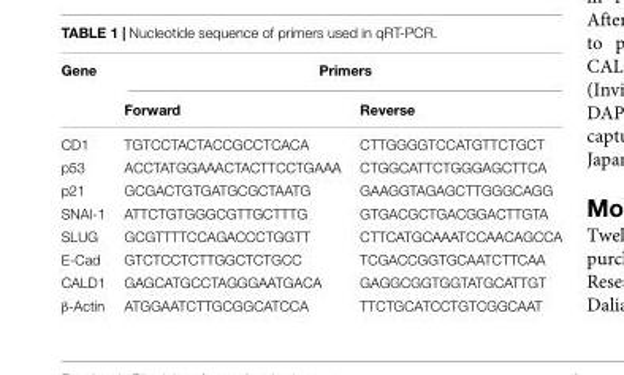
<table><thead><tr><td rowspan="2">Gene</td><td colspan="2">Primers</td></tr><tr><td>Forward</td><td>Reverse</td></tr></thead><tbody><tr><td>CD1</td><td>TGTCCTACTACCGCCTCACA</td><td>CTTGGGGTCCATGTTCTGCT</td></tr><tr><td>p53</td><td>ACCTATGGAAACTACTTCCTGAAA</td><td>CTGGCATTCTGGGAGCTTCA</td></tr><tr><td>p21</td><td>GCGACTGTGATGCGCTAATG</td><td>GAAGGTAGAGCTTGGGCAGG</td></tr><tr><td>SNAI-1</td><td>ATTCTGTGGGCGTTGCTTTG</td><td>GTGACGCTGACGGACTTGTA</td></tr><tr><td>SLUG</td><td>GCGTTTTCCAGACCCTGGTT</td><td>CTTCATGCAAATCCAACAGCCA</td></tr><tr><td>E-Cad</td><td>GTCTCCTCTTGGCTCTGCC</td><td>TCGACCGGTGCAATCTTCAA</td></tr><tr><td>CALD1</td><td>GAGCATGCCTAGGGAATGACA</td><td>GAGGCGGTGGTATGCATTGT</td></tr><tr><td>β-Actin</td><td>ATGGAATCTTGCGGCATCCA</td><td>TTCTGCATCCTGTCGGCAAT</td></tr></tbody></table>